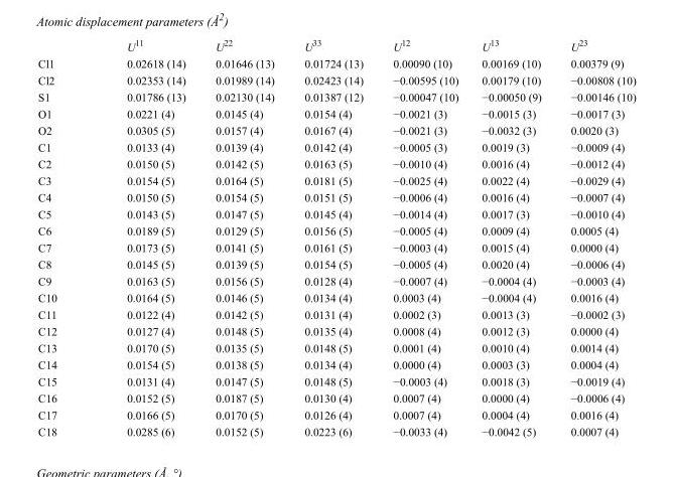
<table><thead><tr><td></td><td>U<sup>11</sup></td><td>U<sup>22</sup></td><td>U<sup>33</sup></td><td>U<sup>12</sup></td><td>U<sup>13</sup></td><td>U<sup>23</sup></td></tr></thead><tbody><tr><td>Cl1</td><td>0.02618 (14)</td><td>0.01646 (13)</td><td>0.01724 (13)</td><td>0.00090 (10)</td><td>0.00169 (10)</td><td>0.00379 (9)</td></tr><tr><td>Cl2</td><td>0.02353 (14)</td><td>0.01989 (14)</td><td>0.02423 (14)</td><td>−0.00595 (10)</td><td>0.00179 (10)</td><td>−0.00808 (10)</td></tr><tr><td>S1</td><td>0.01786 (13)</td><td>0.02130 (14)</td><td>0.01387 (12)</td><td>−0.00047 (10)</td><td>−0.00050 (9)</td><td>−0.00146 (10)</td></tr><tr><td>O1</td><td>0.0221 (4)</td><td>0.0145 (4)</td><td>0.0154 (4)</td><td>−0.0021 (3)</td><td>−0.0015 (3)</td><td>−0.0017 (3)</td></tr><tr><td>O2</td><td>0.0305 (5)</td><td>0.0157 (4)</td><td>0.0167 (4)</td><td>−0.0021 (3)</td><td>−0.0032 (3)</td><td>0.0020 (3)</td></tr><tr><td>C1</td><td>0.0133 (4)</td><td>0.0139 (4)</td><td>0.0142 (4)</td><td>−0.0005 (3)</td><td>0.0019 (3)</td><td>−0.0009 (4)</td></tr><tr><td>C2</td><td>0.0150 (5)</td><td>0.0142 (5)</td><td>0.0163 (5)</td><td>−0.0010 (4)</td><td>0.0016 (4)</td><td>−0.0012 (4)</td></tr><tr><td>C3</td><td>0.0154 (5)</td><td>0.0164 (5)</td><td>0.0181 (5)</td><td>−0.0025 (4)</td><td>0.0022 (4)</td><td>−0.0029 (4)</td></tr><tr><td>C4</td><td>0.0150 (5)</td><td>0.0154 (5)</td><td>0.0151 (5)</td><td>−0.0006 (4)</td><td>0.0016 (4)</td><td>−0.0007 (4)</td></tr><tr><td>C5</td><td>0.0143 (5)</td><td>0.0147 (5)</td><td>0.0145 (4)</td><td>−0.0014 (4)</td><td>0.0017 (3)</td><td>−0.0010 (4)</td></tr><tr><td>C6</td><td>0.0189 (5)</td><td>0.0129 (5)</td><td>0.0156 (5)</td><td>−0.0005 (4)</td><td>0.0009 (4)</td><td>0.0005 (4)</td></tr><tr><td>C7</td><td>0.0173 (5)</td><td>0.0141 (5)</td><td>0.0161 (5)</td><td>−0.0003 (4)</td><td>0.0015 (4)</td><td>0.0000 (4)</td></tr><tr><td>C8</td><td>0.0145 (5)</td><td>0.0139 (5)</td><td>0.0154 (5)</td><td>−0.0005 (4)</td><td>0.0020 (4)</td><td>−0.0006 (4)</td></tr><tr><td>C9</td><td>0.0163 (5)</td><td>0.0156 (5)</td><td>0.0128 (4)</td><td>−0.0007 (4)</td><td>−0.0004 (4)</td><td>−0.0003 (4)</td></tr><tr><td>C10</td><td>0.0164 (5)</td><td>0.0146 (5)</td><td>0.0134 (4)</td><td>0.0003 (4)</td><td>−0.0004 (4)</td><td>0.0016 (4)</td></tr><tr><td>C11</td><td>0.0122 (4)</td><td>0.0142 (5)</td><td>0.0131 (4)</td><td>0.0002 (3)</td><td>0.0013 (3)</td><td>−0.0002 (3)</td></tr><tr><td>C12</td><td>0.0127 (4)</td><td>0.0148 (5)</td><td>0.0135 (4)</td><td>0.0008 (4)</td><td>0.0012 (3)</td><td>0.0000 (4)</td></tr><tr><td>C13</td><td>0.0170 (5)</td><td>0.0135 (5)</td><td>0.0148 (5)</td><td>0.0001 (4)</td><td>0.0010 (4)</td><td>0.0014 (4)</td></tr><tr><td>C14</td><td>0.0154 (5)</td><td>0.0138 (5)</td><td>0.0134 (4)</td><td>0.0000 (4)</td><td>0.0003 (3)</td><td>0.0004 (4)</td></tr><tr><td>C15</td><td>0.0131 (4)</td><td>0.0147 (5)</td><td>0.0148 (5)</td><td>−0.0003 (4)</td><td>0.0018 (3)</td><td>−0.0019 (4)</td></tr><tr><td>C16</td><td>0.0152 (5)</td><td>0.0187 (5)</td><td>0.0130 (4)</td><td>0.0007 (4)</td><td>0.0000 (4)</td><td>−0.0006 (4)</td></tr><tr><td>C17</td><td>0.0166 (5)</td><td>0.0170 (5)</td><td>0.0126 (4)</td><td>0.0007 (4)</td><td>0.0004 (4)</td><td>0.0016 (4)</td></tr><tr><td>C18</td><td>0.0285 (6)</td><td>0.0152 (5)</td><td>0.0223 (6)</td><td>−0.0033 (4)</td><td>−0.0042 (5)</td><td>0.0007 (4)</td></tr></tbody></table>